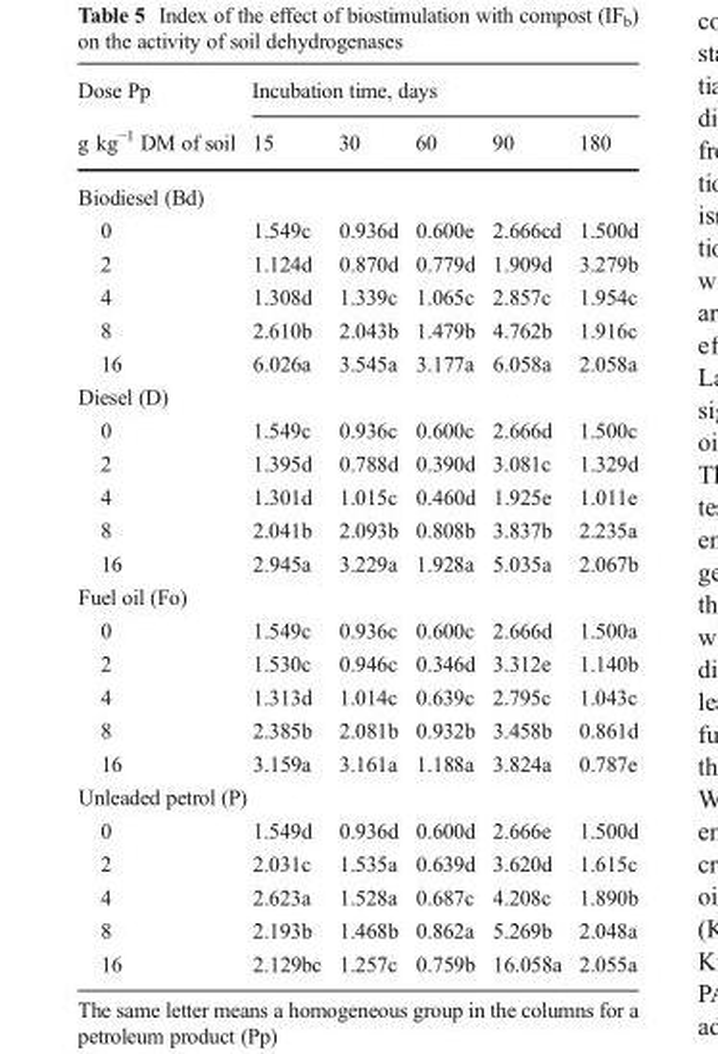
<table><thead><tr><td rowspan="2">Dose Pp g kg<sup>−1</sup> DM of soil</td><td colspan="5">Incubation time, days</td></tr><tr><td>15</td><td>30</td><td>60</td><td>90</td><td>180</td></tr></thead><tbody><tr><td colspan="6">Biodiesel (Bd)</td></tr><tr><td>0</td><td>1.549c</td><td>0.936d</td><td>0.600e</td><td>2.666cd</td><td>1.500d</td></tr><tr><td>2</td><td>1.124d</td><td>0.870d</td><td>0.779d</td><td>1.909d</td><td>3.279b</td></tr><tr><td>4</td><td>1.308d</td><td>1.339c</td><td>1.065c</td><td>2.857c</td><td>1.954c</td></tr><tr><td>8</td><td>2.610b</td><td>2.043b</td><td>1.479b</td><td>4.762b</td><td>1.916c</td></tr><tr><td>16</td><td>6.026a</td><td>3.545a</td><td>3.177a</td><td>6.058a</td><td>2.058a</td></tr><tr><td colspan="6">Diesel (D)</td></tr><tr><td>0</td><td>1.549c</td><td>0.936c</td><td>0.600c</td><td>2.666d</td><td>1.500c</td></tr><tr><td>2</td><td>1.395d</td><td>0.788d</td><td>0.390d</td><td>3.081c</td><td>1.329d</td></tr><tr><td>4</td><td>1.301d</td><td>1.015c</td><td>0.460d</td><td>1.925e</td><td>1.011e</td></tr><tr><td>8</td><td>2.041b</td><td>2.093b</td><td>0.808b</td><td>3.837b</td><td>2.235a</td></tr><tr><td>16</td><td>2.945a</td><td>3.229a</td><td>1.928a</td><td>5.035a</td><td>2.067b</td></tr><tr><td colspan="6">Fuel oil (Fo)</td></tr><tr><td>0</td><td>1.549c</td><td>0.936c</td><td>0.600c</td><td>2.666d</td><td>1.500a</td></tr><tr><td>2</td><td>1.530c</td><td>0.946c</td><td>0.346d</td><td>3.312e</td><td>1.140b</td></tr><tr><td>4</td><td>1.313d</td><td>1.014c</td><td>0.639c</td><td>2.795c</td><td>1.043c</td></tr><tr><td>8</td><td>2.385b</td><td>2.081b</td><td>0.932b</td><td>3.458b</td><td>0.861d</td></tr><tr><td>16</td><td>3.159a</td><td>3.161a</td><td>1.188a</td><td>3.824a</td><td>0.787e</td></tr><tr><td colspan="6">Unleaded petrol (P)</td></tr><tr><td>0</td><td>1.549d</td><td>0.936d</td><td>0.600d</td><td>2.666e</td><td>1.500d</td></tr><tr><td>2</td><td>2.031c</td><td>1.535a</td><td>0.639d</td><td>3.620d</td><td>1.615c</td></tr><tr><td>4</td><td>2.623a</td><td>1.528a</td><td>0.687c</td><td>4.208c</td><td>1.890b</td></tr><tr><td>8</td><td>2.193b</td><td>1.468b</td><td>0.862a</td><td>5.269b</td><td>2.048a</td></tr><tr><td>16</td><td>2.129bc</td><td>1.257c</td><td>0.759b</td><td>16.058a</td><td>2.055a</td></tr></tbody></table>